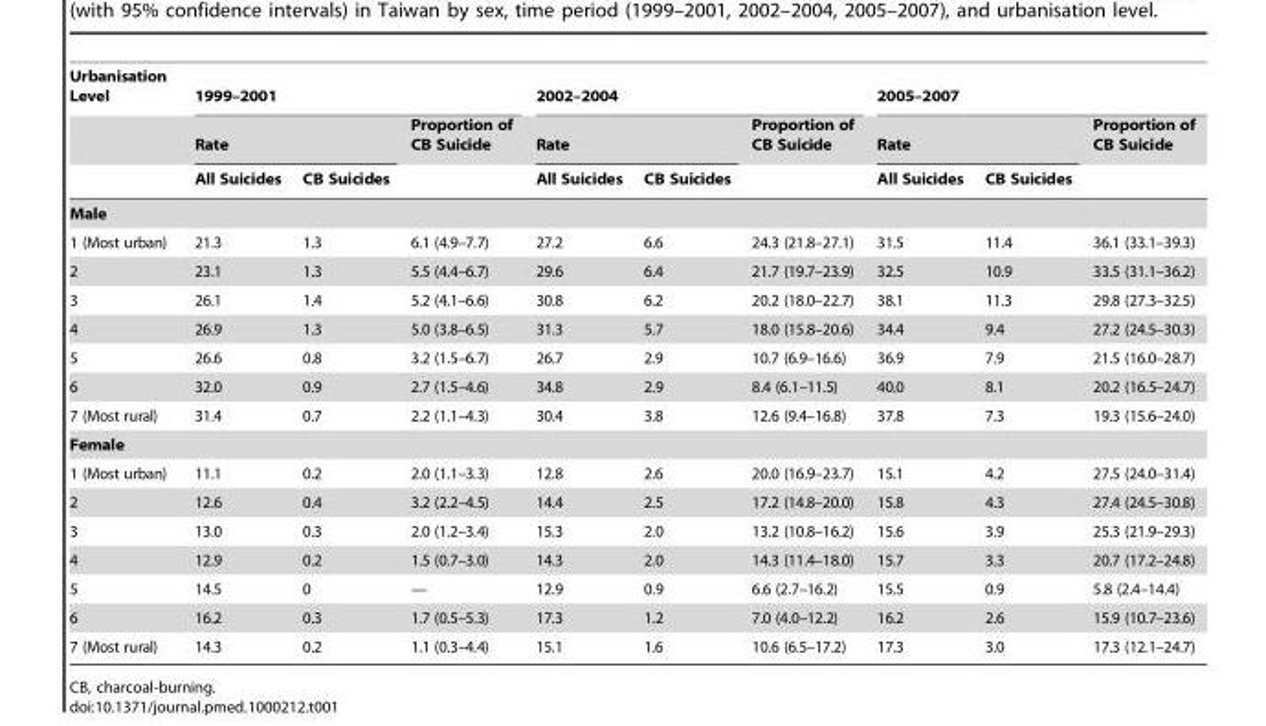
<table><thead><tr><td rowspan="3">Urbanisation Level</td><td colspan="3">1999–2001</td><td colspan="3">2002–2004</td><td colspan="3">2005–2007</td></tr><tr><td colspan="2">Rate</td><td rowspan="2">Proportion of CB Suicide</td><td colspan="2">Rate</td><td rowspan="2">Proportion of CB Suicide</td><td colspan="2">Rate</td><td rowspan="2">Proportion of CB Suicide</td></tr><tr><td>All Suicides</td><td>CB Suicides</td><td>All Suicides</td><td>CB Suicides</td><td>All Suicides</td><td>CB Suicides</td></tr></thead><tbody><tr><td colspan="10">Male</td></tr><tr><td>1 (Most urban)</td><td>21.3</td><td>1.3</td><td>6.1 (4.9–7.7)</td><td>27.2</td><td>6.6</td><td>24.3 (21.8–27.1)</td><td>31.5</td><td>11.4</td><td>36.1 (33.1–39.3)</td></tr><tr><td>2</td><td>23.1</td><td>1.3</td><td>5.5 (4.4–6.7)</td><td>29.6</td><td>6.4</td><td>21.7 (19.7–23.9)</td><td>32.5</td><td>10.9</td><td>33.5 (31.1–36.2)</td></tr><tr><td>3</td><td>26.1</td><td>1.4</td><td>5.2 (4.1–6.6)</td><td>30.8</td><td>6.2</td><td>20.2 (18.0–22.7)</td><td>38.1</td><td>11.3</td><td>29.8 (27.3–32.5)</td></tr><tr><td>4</td><td>26.9</td><td>1.3</td><td>5.0 (3.8–6.5)</td><td>31.3</td><td>5.7</td><td>18.0 (15.8–20.6)</td><td>34.4</td><td>9.4</td><td>27.2 (24.5–30.3)</td></tr><tr><td>5</td><td>26.6</td><td>0.8</td><td>3.2 (1.5–6.7)</td><td>26.7</td><td>2.9</td><td>10.7 (6.9–16.6)</td><td>36.9</td><td>7.9</td><td>21.5 (16.0–28.7)</td></tr><tr><td>6</td><td>32.0</td><td>0.9</td><td>2.7 (1.5–4.6)</td><td>34.8</td><td>2.9</td><td>8.4 (6.1–11.5)</td><td>40.0</td><td>8.1</td><td>20.2 (16.5–24.7)</td></tr><tr><td>7 (Most rural)</td><td>31.4</td><td>0.7</td><td>2.2 (1.1–4.3)</td><td>30.4</td><td>3.8</td><td>12.6 (9.4–16.8)</td><td>37.8</td><td>7.3</td><td>19.3 (15.6–24.0)</td></tr><tr><td colspan="10">Female</td></tr><tr><td>1 (Most urban)</td><td>11.1</td><td>0.2</td><td>2.0 (1.1–3.3)</td><td>12.8</td><td>2.6</td><td>20.0 (16.9–23.7)</td><td>15.1</td><td>4.2</td><td>27.5 (24.0–31.4)</td></tr><tr><td>2</td><td>12.6</td><td>0.4</td><td>3.2 (2.2–4.5)</td><td>14.4</td><td>2.5</td><td>17.2 (14.8–20.0)</td><td>15.8</td><td>4.3</td><td>27.4 (24.5–30.8)</td></tr><tr><td>3</td><td>13.0</td><td>0.3</td><td>2.0 (1.2–3.4)</td><td>15.3</td><td>2.0</td><td>13.2 (10.8–16.2)</td><td>15.6</td><td>3.9</td><td>25.3 (21.9–29.3)</td></tr><tr><td>4</td><td>12.9</td><td>0.2</td><td>1.5 (0.7–3.0)</td><td>14.3</td><td>2.0</td><td>14.3 (11.4–18.0)</td><td>15.7</td><td>3.3</td><td>20.7 (17.2–24.8)</td></tr><tr><td>5</td><td>14.5</td><td>0</td><td>—</td><td>12.9</td><td>0.9</td><td>6.6 (2.7–16.2)</td><td>15.5</td><td>0.9</td><td>5.8 (2.4–14.4)</td></tr><tr><td>6</td><td>16.2</td><td>0.3</td><td>1.7 (0.5–5.3)</td><td>17.3</td><td>1.2</td><td>7.0 (4.0–12.2)</td><td>16.2</td><td>2.6</td><td>15.9 (10.7–23.6)</td></tr><tr><td>7 (Most rural)</td><td>14.3</td><td>0.2</td><td>1.1 (0.3–4.4)</td><td>15.1</td><td>1.6</td><td>10.6 (6.5–17.2)</td><td>17.3</td><td>3.0</td><td>17.3 (12.1–24.7)</td></tr></tbody></table>